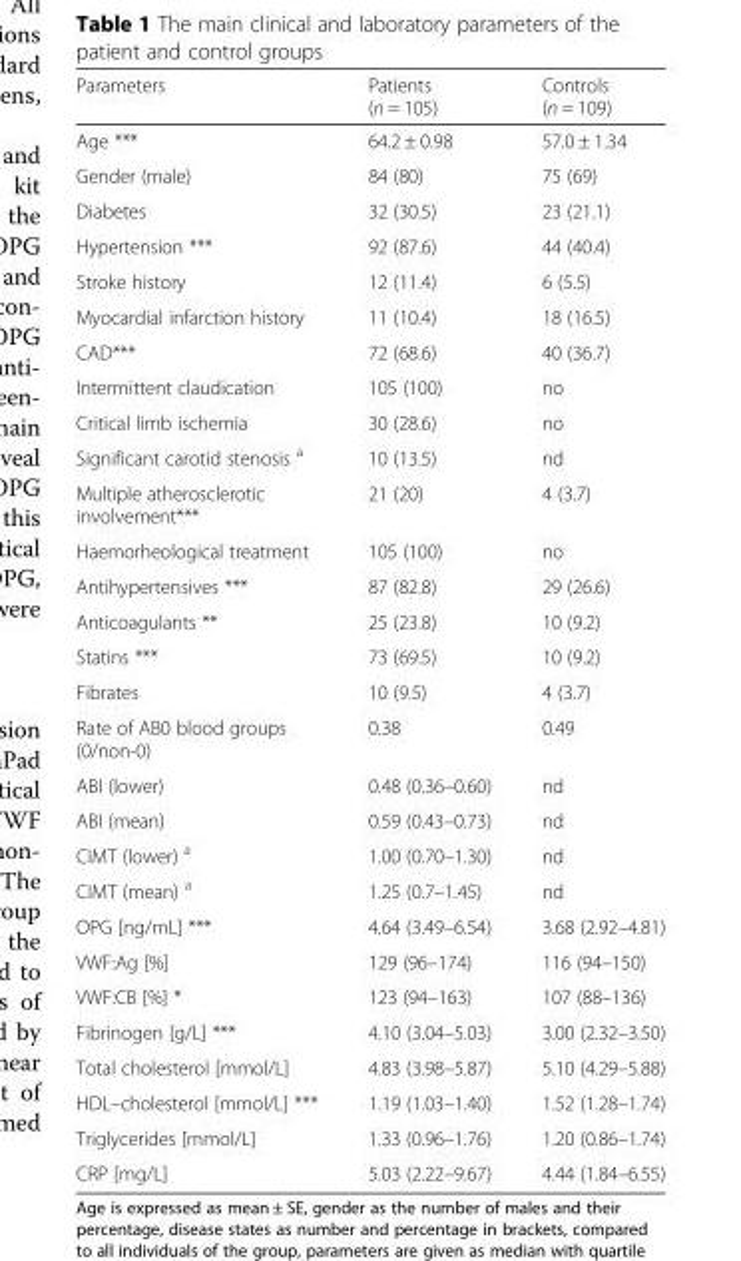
<table><thead><tr><td>Parameters</td><td>Patients (n = 105)</td><td>Controls (n = 109)</td></tr></thead><tbody><tr><td>Age ***</td><td>64.2 ± 0.98</td><td>57.0 ± 1.34</td></tr><tr><td>Gender (male)</td><td>84 (80)</td><td>75 (69)</td></tr><tr><td>Diabetes</td><td>32 (30.5)</td><td>23 (21.1)</td></tr><tr><td>Hypertension ***</td><td>92 (87.6)</td><td>44 (40.4)</td></tr><tr><td>Stroke history</td><td>12 (11.4)</td><td>6 (5.5)</td></tr><tr><td>Myocardial infarction history</td><td>11 (10.4)</td><td>18 (16.5)</td></tr><tr><td>CAD***</td><td>72 (68.6)</td><td>40 (36.7)</td></tr><tr><td>Intermittent claudication</td><td>105 (100)</td><td>no</td></tr><tr><td>Critical limb ischemia</td><td>30 (28.6)</td><td>no</td></tr><tr><td>Significant carotid stenosis <sup>a</sup></td><td>10 (13.5)</td><td>nd</td></tr><tr><td>Multiple atherosclerotic involvement***</td><td>21 (20)</td><td>4 (3.7)</td></tr><tr><td>Haemorheological treatment</td><td>105 (100)</td><td>no</td></tr><tr><td>Antihypertensives ***</td><td>87 (82.8)</td><td>29 (26.6)</td></tr><tr><td>Anticoagulants **</td><td>25 (23.8)</td><td>10 (9.2)</td></tr><tr><td>Statins ***</td><td>73 (69.5)</td><td>10 (9.2)</td></tr><tr><td>Fibrates</td><td>10 (9.5)</td><td>4 (3.7)</td></tr><tr><td>Rate of AB0 blood groups (0/non-0)</td><td>0.38</td><td>0.49</td></tr><tr><td>ABI (lower)</td><td>0.48 (0.36–0.60)</td><td>nd</td></tr><tr><td>ABI (mean)</td><td>0.59 (0.43–0.73)</td><td>nd</td></tr><tr><td>CIMT (lower) <sup>a</sup></td><td>1.00 (0.70–1.30)</td><td>nd</td></tr><tr><td>CIMT (mean) <sup>a</sup></td><td>1.25 (0.7–1.45)</td><td>nd</td></tr><tr><td>OPG [ng/mL] ***</td><td>4.64 (3.49–6.54)</td><td>3.68 (2.92–4.81)</td></tr><tr><td>VWF:Ag [%]</td><td>129 (96–174)</td><td>116 (94–150)</td></tr><tr><td>VWF:CB [%] *</td><td>123 (94–163)</td><td>107 (88–136)</td></tr><tr><td>Fibrinogen [g/L] ***</td><td>4.10 (3.04–5.03)</td><td>3.00 (2.32–3.50)</td></tr><tr><td>Total cholesterol [mmol/L]</td><td>4.83 (3.98–5.87)</td><td>5.10 (4.29–5.88)</td></tr><tr><td>HDL–cholesterol [mmol/L] ***</td><td>1.19 (1.03–1.40)</td><td>1.52 (1.28–1.74)</td></tr><tr><td>Triglycerides [mmol/L]</td><td>1.33 (0.96–1.76)</td><td>1.20 (0.86–1.74)</td></tr><tr><td>CRP [mg/L]</td><td>5.03 (2.22–9.67)</td><td>4.44 (1.84–6.55)</td></tr></tbody></table>